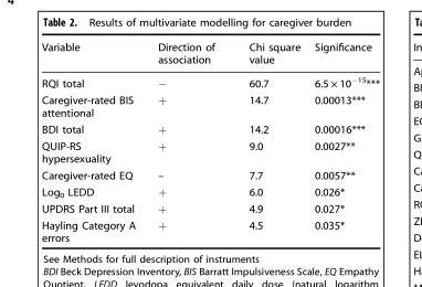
<table><thead><tr><td>Variable</td><td>Direction of association</td><td>Chi square value</td><td>Significance</td></tr></thead><tbody><tr><td>RQI total</td><td>−</td><td>60.7</td><td>6.5 × 10<sup>−15</sup>***</td></tr><tr><td>Caregiver-rated BIS attentional</td><td>+</td><td>14.7</td><td>0.00013***</td></tr><tr><td>BDI total</td><td>+</td><td>14.2</td><td>0.00016***</td></tr><tr><td>QUIP-RS hypersexuality</td><td>+</td><td>9.0</td><td>0.0027**</td></tr><tr><td>Caregiver-rated EQ</td><td>–</td><td>7.7</td><td>0.0057**</td></tr><tr><td>Log<sub>0</sub> LEDD</td><td>+</td><td>6.0</td><td>0.026*</td></tr><tr><td>UPDRS Part III total</td><td>+</td><td>4.9</td><td>0.027*</td></tr><tr><td>Hayling Category A errors</td><td>+</td><td>4.5</td><td>0.035*</td></tr></tbody></table>